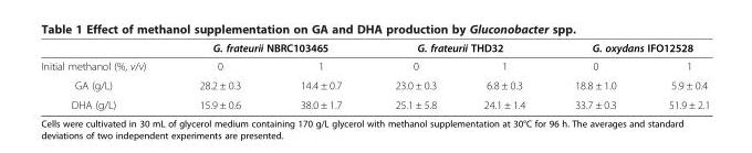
<table><thead><tr><td rowspan="2">Initial methanol (%, v/v)</td><td colspan="2">G. frateurii NBRC103465</td><td colspan="2">G. frateurii THD32</td><td colspan="2">G. oxydans IFO12528</td></tr><tr><td>0</td><td>1</td><td>0</td><td>1</td><td>0</td><td>1</td></tr></thead><tbody><tr><td>GA (g/L)</td><td>28.2 ± 0.3</td><td>14.4 ± 0.7</td><td>23.0 ± 0.3</td><td>6.8 ± 0.3</td><td>18.8 ± 1.0</td><td>5.9 ± 0.4</td></tr><tr><td>DHA (g/L)</td><td>15.9 ± 0.6</td><td>38.0 ± 1.7</td><td>25.1 ± 5.8</td><td>24.1 ± 1.4</td><td>33.7 ± 0.3</td><td>51.9 ± 2.1</td></tr></tbody></table>